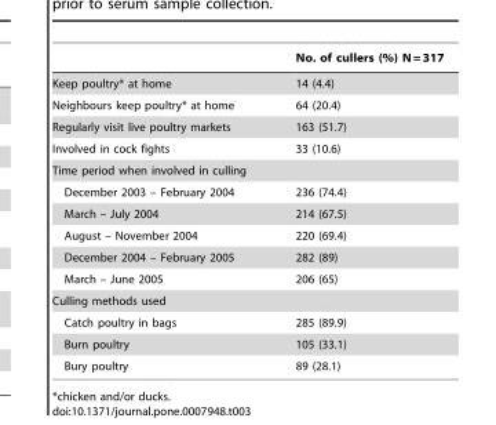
<table><thead><tr><td></td><td>No. of cullers (%) N = 317</td></tr></thead><tbody><tr><td>Keep poultry* at home</td><td>14 (4.4)</td></tr><tr><td>Neighbours keep poultry* at home</td><td>64 (20.4)</td></tr><tr><td>Regularly visit live poultry markets</td><td>163 (51.7)</td></tr><tr><td>Involved in cock fights</td><td>33 (10.6)</td></tr><tr><td colspan="2">Time period when involved in culling</td></tr><tr><td>December 2003 – February 2004</td><td>236 (74.4)</td></tr><tr><td>March – July 2004</td><td>214 (67.5)</td></tr><tr><td>August – November 2004</td><td>220 (69.4)</td></tr><tr><td>December 2004 – February 2005</td><td>282 (89)</td></tr><tr><td>March – June 2005</td><td>206 (65)</td></tr><tr><td colspan="2">Culling methods used</td></tr><tr><td>Catch poultry in bags</td><td>285 (89.9)</td></tr><tr><td>Burn poultry</td><td>105 (33.1)</td></tr><tr><td>Bury poultry</td><td>89 (28.1)</td></tr></tbody></table>